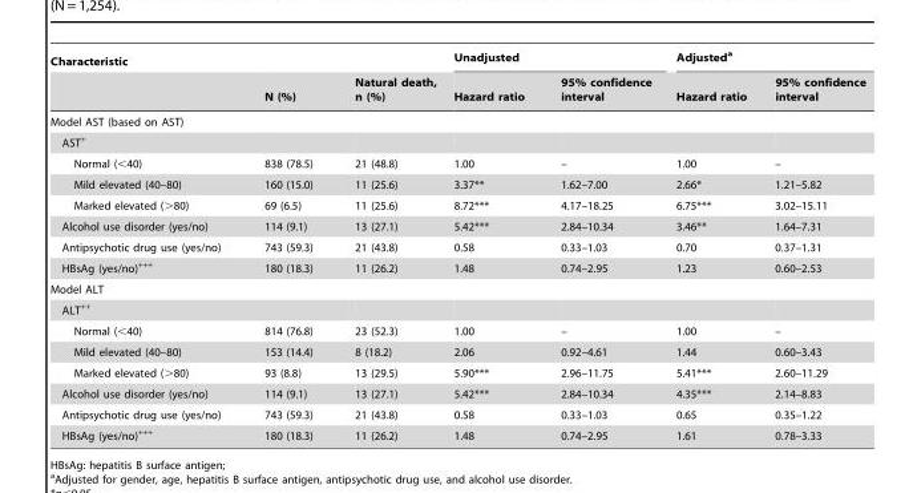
<table><thead><tr><td rowspan="2">Characteristic</td><td rowspan="2">N (%)</td><td rowspan="2">Natural death, n (%)</td><td colspan="2">Unadjusted</td><td colspan="2">Adjusted<sup>a</sup></td></tr><tr><td>Hazard ratio</td><td>95% confidence interval</td><td>Hazard ratio</td><td>95% confidence interval</td></tr></thead><tbody><tr><td colspan="7">Model AST (based on AST)</td></tr><tr><td colspan="7">AST+</td></tr><tr><td>Normal (&lt;40)</td><td>838 (78.5)</td><td>21 (48.8)</td><td>1.00</td><td>–</td><td>1.00</td><td>–</td></tr><tr><td>Mild elevated (40–80)</td><td>160 (15.0)</td><td>11 (25.6)</td><td>3.37**</td><td>1.62–7.00</td><td>2.66*</td><td>1.21–5.82</td></tr><tr><td>Marked elevated (&gt;80)</td><td>69 (6.5)</td><td>11 (25.6)</td><td>8.72***</td><td>4.17–18.25</td><td>6.75***</td><td>3.02–15.11</td></tr><tr><td>Alcohol use disorder (yes/no)</td><td>114 (9.1)</td><td>13 (27.1)</td><td>5.42***</td><td>2.84–10.34</td><td>3.46**</td><td>1.64–7.31</td></tr><tr><td>Antipsychotic drug use (yes/no)</td><td>743 (59.3)</td><td>21 (43.8)</td><td>0.58</td><td>0.33–1.03</td><td>0.70</td><td>0.37–1.31</td></tr><tr><td>HBsAg (yes/no)+++</td><td>180 (18.3)</td><td>11 (26.2)</td><td>1.48</td><td>0.74–2.95</td><td>1.23</td><td>0.60–2.53</td></tr><tr><td colspan="7">Model ALT</td></tr><tr><td colspan="7">ALT++</td></tr><tr><td>Normal (&lt;40)</td><td>814 (76.8)</td><td>23 (52.3)</td><td>1.00</td><td>–</td><td>1.00</td><td>–</td></tr><tr><td>Mild elevated (40–80)</td><td>153 (14.4)</td><td>8 (18.2)</td><td>2.06</td><td>0.92–4.61</td><td>1.44</td><td>0.60–3.43</td></tr><tr><td>Marked elevated (&gt;80)</td><td>93 (8.8)</td><td>13 (29.5)</td><td>5.90***</td><td>2.96–11.75</td><td>5.41***</td><td>2.60–11.29</td></tr><tr><td>Alcohol use disorder (yes/no)</td><td>114 (9.1)</td><td>13 (27.1)</td><td>5.42***</td><td>2.84–10.34</td><td>4.35***</td><td>2.14–8.83</td></tr><tr><td>Antipsychotic drug use (yes/no)</td><td>743 (59.3)</td><td>21 (43.8)</td><td>0.58</td><td>0.33–1.03</td><td>0.65</td><td>0.35–1.22</td></tr><tr><td>HBsAg (yes/no)+++</td><td>180 (18.3)</td><td>11 (26.2)</td><td>1.48</td><td>0.74–2.95</td><td>1.61</td><td>0.78–3.33</td></tr></tbody></table>